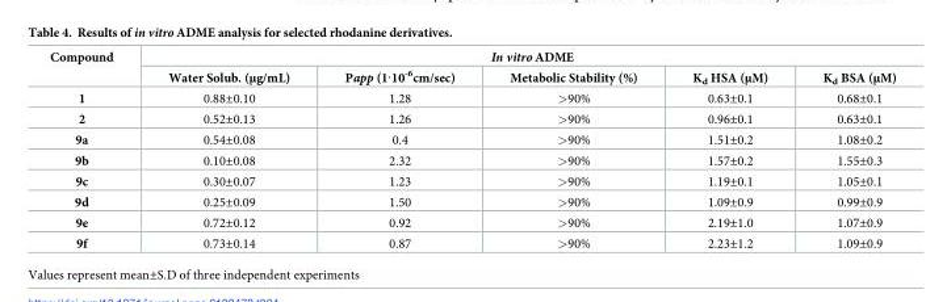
<table><thead><tr><td rowspan="2">Compound</td><td colspan="5">In vitro ADME</td></tr><tr><td>Water Solub. (μg/mL)</td><td>Papp (1·10<sup>-6</sup>cm/sec)</td><td>Metabolic Stability (%)</td><td>K<sub>d</sub> HSA (μM)</td><td>K<sub>d</sub> BSA (μM)</td></tr></thead><tbody><tr><td>1</td><td>0.88±0.10</td><td>1.28</td><td>&gt;90%</td><td>0.63±0.1</td><td>0.68±0.1</td></tr><tr><td>2</td><td>0.52±0.13</td><td>1.26</td><td>&gt;90%</td><td>0.96±0.1</td><td>0.63±0.1</td></tr><tr><td>9a</td><td>0.54±0.08</td><td>0.4</td><td>&gt;90%</td><td>1.51±0.2</td><td>1.08±0.2</td></tr><tr><td>9b</td><td>0.10±0.08</td><td>2.32</td><td>&gt;90%</td><td>1.57±0.2</td><td>1.55±0.3</td></tr><tr><td>9c</td><td>0.30±0.07</td><td>1.23</td><td>&gt;90%</td><td>1.19±0.1</td><td>1.05±0.1</td></tr><tr><td>9d</td><td>0.25±0.09</td><td>1.50</td><td>&gt;90%</td><td>1.09±0.9</td><td>0.99±0.9</td></tr><tr><td>9e</td><td>0.72±0.12</td><td>0.92</td><td>&gt;90%</td><td>2.19±1.0</td><td>1.07±0.9</td></tr><tr><td>9f</td><td>0.73±0.14</td><td>0.87</td><td>&gt;90%</td><td>2.23±1.2</td><td>1.09±0.9</td></tr></tbody></table>